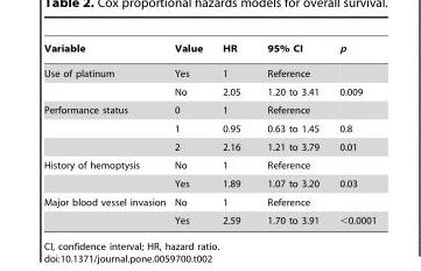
<table><thead><tr><td>Variable</td><td>Value</td><td>HR</td><td>95% CI</td><td>p</td></tr></thead><tbody><tr><td rowspan="2">Use of platinum</td><td>Yes</td><td>1</td><td>Reference</td><td></td></tr><tr><td>No</td><td>2.05</td><td>1.20 to 3.41</td><td>0.009</td></tr><tr><td rowspan="3">Performance status</td><td>0</td><td>1</td><td>Reference</td><td></td></tr><tr><td>1</td><td>0.95</td><td>0.63 to 1.45</td><td>0.8</td></tr><tr><td>2</td><td>2.16</td><td>1.21 to 3.79</td><td>0.01</td></tr><tr><td rowspan="2">History of hemoptysis</td><td>No</td><td>1</td><td>Reference</td><td></td></tr><tr><td>Yes</td><td>1.89</td><td>1.07 to 3.20</td><td>0.03</td></tr><tr><td rowspan="2">Major blood vessel invasion</td><td>No</td><td>1</td><td>Reference</td><td></td></tr><tr><td>Yes</td><td>2.59</td><td>1.70 to 3.91</td><td>&lt;0.0001</td></tr></tbody></table>